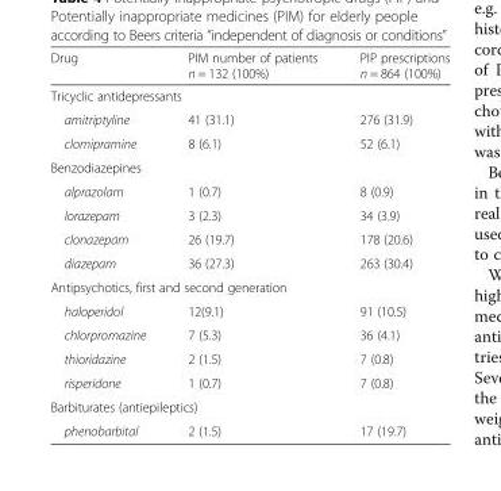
<table><thead><tr><td>Drug</td><td>PIM number of patients n = 132 (100%)</td><td>PIP prescriptions n = 864 (100%)</td></tr></thead><tbody><tr><td colspan="3">Tricyclic antidepressants</td></tr><tr><td>amitriptyline</td><td>41 (31.1)</td><td>276 (31.9)</td></tr><tr><td>clomipramine</td><td>8 (6.1)</td><td>52 (6.1)</td></tr><tr><td colspan="3">Benzodiazepines</td></tr><tr><td>alprazolam</td><td>1 (0.7)</td><td>8 (0.9)</td></tr><tr><td>lorazepam</td><td>3 (2.3)</td><td>34 (3.9)</td></tr><tr><td>clonazepam</td><td>26 (19.7)</td><td>178 (20.6)</td></tr><tr><td>diazepam</td><td>36 (27.3)</td><td>263 (30.4)</td></tr><tr><td colspan="3">Antipsychotics, first and second generation</td></tr><tr><td>haloperidol</td><td>12(9.1)</td><td>91 (10.5)</td></tr><tr><td>chlorpromazine</td><td>7 (5.3)</td><td>36 (4.1)</td></tr><tr><td>thioridazine</td><td>2 (1.5)</td><td>7 (0.8)</td></tr><tr><td>risperidone</td><td>1 (0.7)</td><td>7 (0.8)</td></tr><tr><td colspan="3">Barbiturates (antiepileptics)</td></tr><tr><td>phenobarbital</td><td>2 (1.5)</td><td>17 (19.7)</td></tr></tbody></table>